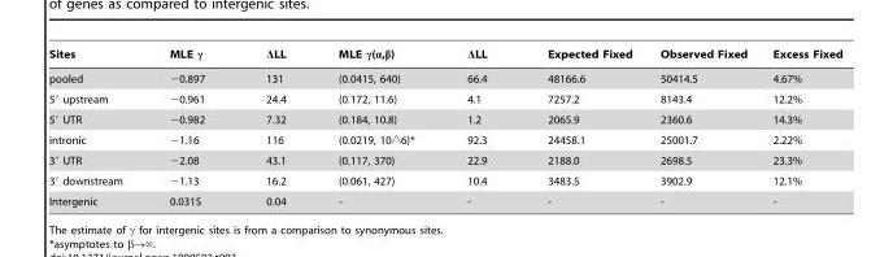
<table><thead><tr><td>Sites</td><td>MLE γ</td><td>ΔLL</td><td>MLE γ(α,β)</td><td>ΔLL</td><td>Expected Fixed</td><td>Observed Fixed</td><td>Excess Fixed</td></tr></thead><tbody><tr><td>pooled</td><td>−0.897</td><td>131</td><td>(0.0415, 640)</td><td>66.4</td><td>48166.6</td><td>50414.5</td><td>4.67%</td></tr><tr><td>5′ upstream</td><td>−0.961</td><td>24.4</td><td>(0.172, 11.6)</td><td>4.1</td><td>7257.2</td><td>8143.4</td><td>12.2%</td></tr><tr><td>5′ UTR</td><td>−0.982</td><td>7.32</td><td>(0.184, 10.8)</td><td>1.2</td><td>2065.9</td><td>2360.6</td><td>14.3%</td></tr><tr><td>intronic</td><td>−1.16</td><td>116</td><td>(0.0219, 10‘6)*</td><td>92.3</td><td>24458.1</td><td>25001.7</td><td>2.22%</td></tr><tr><td>3′ UTR</td><td>−2.08</td><td>43.1</td><td>(0.117, 370)</td><td>22.9</td><td>2188.0</td><td>2698.5</td><td>23.3%</td></tr><tr><td>3′ downstream</td><td>−1.13</td><td>16.2</td><td>(0.061, 427)</td><td>10.4</td><td>3483.5</td><td>3902.9</td><td>12.1%</td></tr><tr><td>Intergenic</td><td>0.0315</td><td>0.04</td><td>-</td><td>-</td><td>-</td><td>-</td><td>-</td></tr></tbody></table>